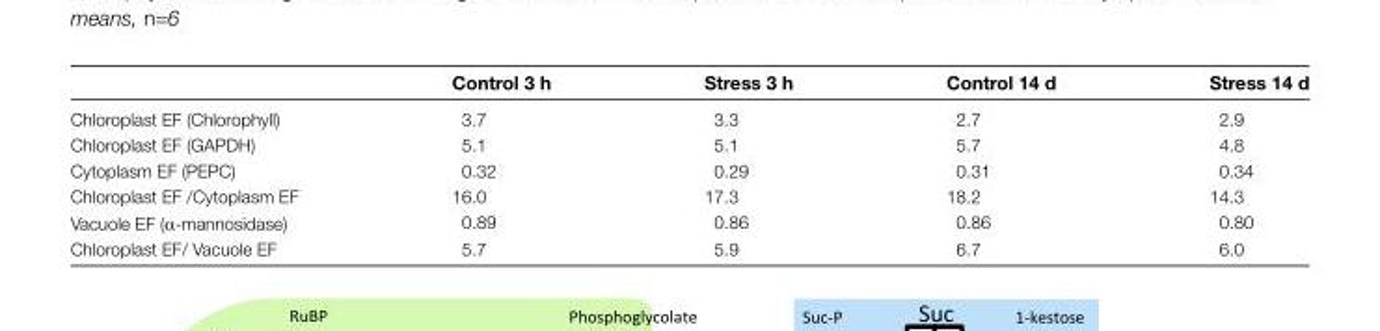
<table><thead><tr><td></td><td>Control 3 h</td><td>Stress 3 h</td><td>Control 14 d</td><td>Stress 14 d</td></tr></thead><tbody><tr><td>Chloroplast EF (Chlorophyll)</td><td>3.7</td><td>3.3</td><td>2.7</td><td>2.9</td></tr><tr><td>Chloroplast EF (GAPDH)</td><td>5.1</td><td>5.1</td><td>5.7</td><td>4.8</td></tr><tr><td>Cytoplasm EF (PEPC)</td><td>0.32</td><td>0.29</td><td>0.31</td><td>0.34</td></tr><tr><td>Chloroplast EF /Cytoplasm EF</td><td>16.0</td><td>17.3</td><td>18.2</td><td>14.3</td></tr><tr><td>Vacuole EF (α-mannosidase)</td><td>0.89</td><td>0.86</td><td>0.86</td><td>0.80</td></tr><tr><td>Chloroplast EF/ Vacuole EF</td><td>5.7</td><td>5.9</td><td>6.7</td><td>6.0</td></tr></tbody></table>